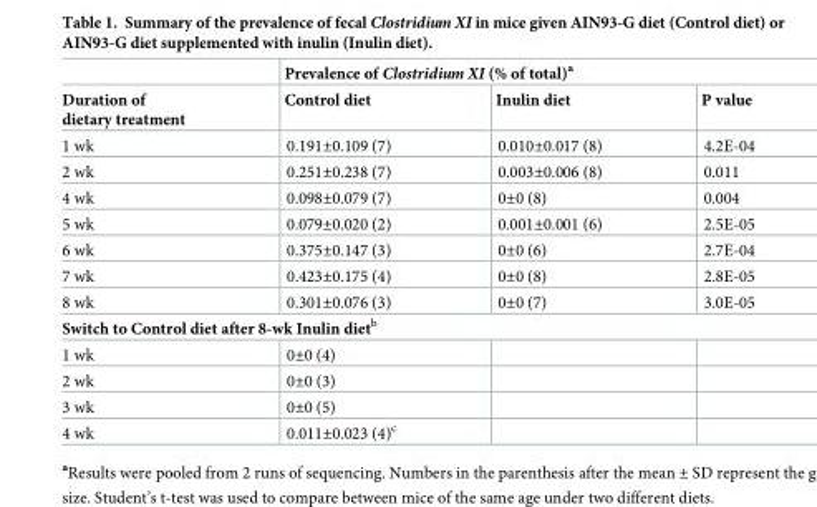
<table><thead><tr><td rowspan="2">Duration of dietary treatment</td><td colspan="3">Prevalence of Clostridium XI (% of total)<sup>a</sup></td></tr><tr><td>Control diet</td><td>Inulin diet</td><td>P value</td></tr></thead><tbody><tr><td>1 wk</td><td>0.191±0.109 (7)</td><td>0.010±0.017 (8)</td><td>4.2E-04</td></tr><tr><td>2 wk</td><td>0.251±0.238 (7)</td><td>0.003±0.006 (8)</td><td>0.011</td></tr><tr><td>4 wk</td><td>0.098±0.079 (7)</td><td>0±0 (8)</td><td>0.004</td></tr><tr><td>5 wk</td><td>0.079±0.020 (2)</td><td>0.001±0.001 (6)</td><td>2.5E-05</td></tr><tr><td>6 wk</td><td>0.375±0.147 (3)</td><td>0±0 (6)</td><td>2.7E-04</td></tr><tr><td>7 wk</td><td>0.423±0.175 (4)</td><td>0±0 (8)</td><td>2.8E-05</td></tr><tr><td>8 wk</td><td>0.301±0.076 (3)</td><td>0±0 (7)</td><td>3.0E-05</td></tr><tr><td colspan="4">Switch to Control diet after 8-wk Inulin diet<sup>b</sup></td></tr><tr><td>1 wk</td><td>0±0 (4)</td><td></td><td></td></tr><tr><td>2 wk</td><td>0±0 (3)</td><td></td><td></td></tr><tr><td>3 wk</td><td>0±0 (5)</td><td></td><td></td></tr><tr><td>4 wk</td><td>0.011±0.023 (4)<sup>c</sup></td><td></td><td></td></tr></tbody></table>